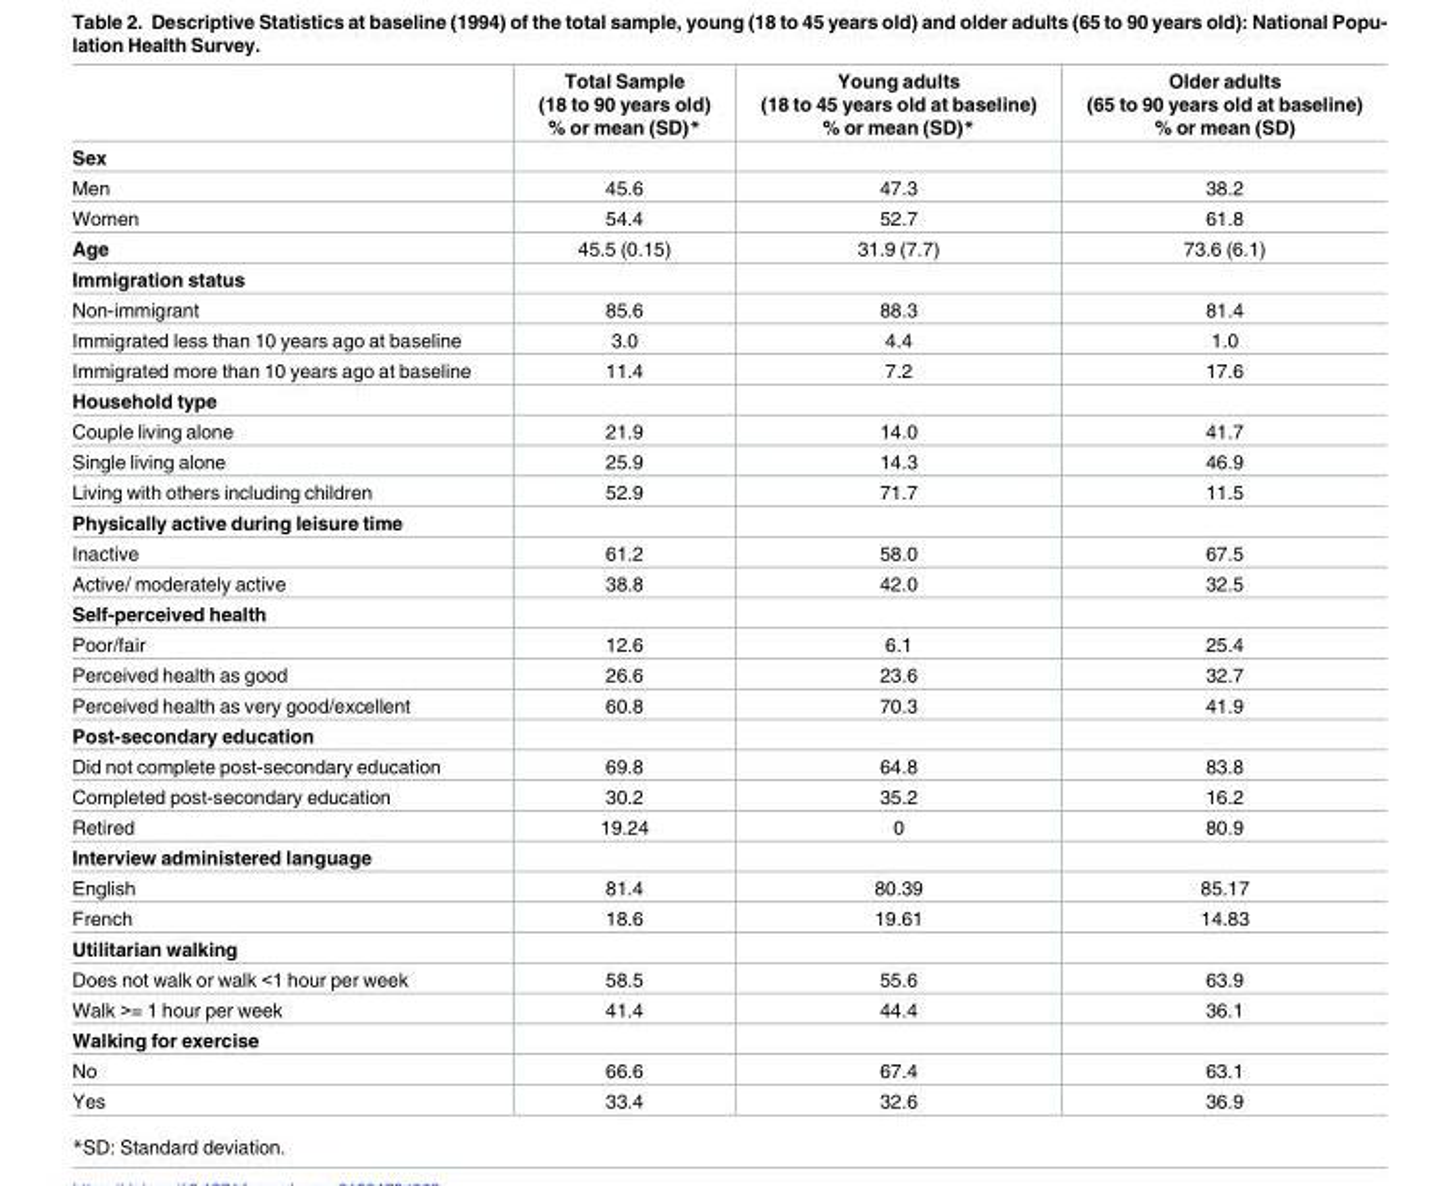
<table><thead><tr><td></td><td>Total Sample (18 to 90 years old) % or mean (SD)*</td><td>Young adults (18 to 45 years old at baseline) % or mean (SD)*</td><td>Older adults (65 to 90 years old at baseline) % or mean (SD)</td></tr></thead><tbody><tr><td colspan="4">Sex</td></tr><tr><td>Men</td><td>45.6</td><td>47.3</td><td>38.2</td></tr><tr><td>Women</td><td>54.4</td><td>52.7</td><td>61.8</td></tr><tr><td>Age</td><td>45.5 (0.15)</td><td>31.9 (7.7)</td><td>73.6 (6.1)</td></tr><tr><td colspan="4">Immigration status</td></tr><tr><td>Non-immigrant</td><td>85.6</td><td>88.3</td><td>81.4</td></tr><tr><td>Immigrated less than 10 years ago at baseline</td><td>3.0</td><td>4.4</td><td>1.0</td></tr><tr><td>Immigrated more than 10 years ago at baseline</td><td>11.4</td><td>7.2</td><td>17.6</td></tr><tr><td colspan="4">Household type</td></tr><tr><td>Couple living alone</td><td>21.9</td><td>14.0</td><td>41.7</td></tr><tr><td>Single living alone</td><td>25.9</td><td>14.3</td><td>46.9</td></tr><tr><td>Living with others including children</td><td>52.9</td><td>71.7</td><td>11.5</td></tr><tr><td colspan="4">Physically active during leisure time</td></tr><tr><td>Inactive</td><td>61.2</td><td>58.0</td><td>67.5</td></tr><tr><td>Active/ moderately active</td><td>38.8</td><td>42.0</td><td>32.5</td></tr><tr><td colspan="4">Self-perceived health</td></tr><tr><td>Poor/fair</td><td>12.6</td><td>6.1</td><td>25.4</td></tr><tr><td>Perceived health as good</td><td>26.6</td><td>23.6</td><td>32.7</td></tr><tr><td>Perceived health as very good/excellent</td><td>60.8</td><td>70.3</td><td>41.9</td></tr><tr><td colspan="4">Post-secondary education</td></tr><tr><td>Did not complete post-secondary education</td><td>69.8</td><td>64.8</td><td>83.8</td></tr><tr><td>Completed post-secondary education</td><td>30.2</td><td>35.2</td><td>16.2</td></tr><tr><td>Retired</td><td>19.24</td><td>0</td><td>80.9</td></tr><tr><td colspan="4">Interview administered language</td></tr><tr><td>English</td><td>81.4</td><td>80.39</td><td>85.17</td></tr><tr><td>French</td><td>18.6</td><td>19.61</td><td>14.83</td></tr><tr><td colspan="4">Utilitarian walking</td></tr><tr><td>Does not walk or walk &lt;1 hour per week</td><td>58.5</td><td>55.6</td><td>63.9</td></tr><tr><td>Walk &gt;= 1 hour per week</td><td>41.4</td><td>44.4</td><td>36.1</td></tr><tr><td colspan="4">Walking for exercise</td></tr><tr><td>No</td><td>66.6</td><td>67.4</td><td>63.1</td></tr><tr><td>Yes</td><td>33.4</td><td>32.6</td><td>36.9</td></tr></tbody></table>